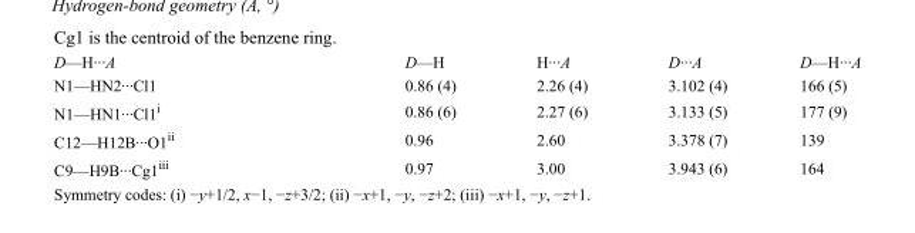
<table><tbody><tr><td>D—H···A</td><td>D—H</td><td>H···A</td><td>D···A</td><td>D—H···A</td></tr><tr><td>N1—HN2···Cl1</td><td>0.86 (4)</td><td>2.26 (4)</td><td>3.102 (4)</td><td>166 (5)</td></tr><tr><td>N1—HN1···Cl1<sup>i</sup></td><td>0.86 (6)</td><td>2.27 (6)</td><td>3.133 (5)</td><td>177 (9)</td></tr><tr><td>C12—H12B···O1<sup>ii</sup></td><td>0.96</td><td>2.60</td><td>3.378 (7)</td><td>139</td></tr><tr><td>C9—H9B···Cg1<sup>iii</sup></td><td>0.97</td><td>3.00</td><td>3.943 (6)</td><td>164</td></tr></tbody></table>